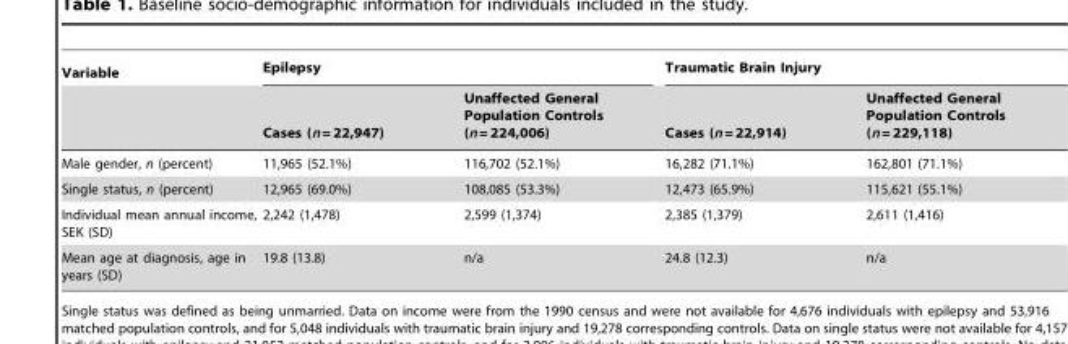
<table><thead><tr><td rowspan="2">Variable</td><td colspan="2">Epilepsy</td><td colspan="2">Traumatic Brain Injury</td></tr><tr><td>Cases (n = 22,947)</td><td>Unaffected General Population Controls (n = 224,006)</td><td>Cases (n = 22,914)</td><td>Unaffected General Population Controls (n = 229,118)</td></tr></thead><tbody><tr><td>Male gender, n (percent)</td><td>11,965 (52.1%)</td><td>116,702 (52.1%)</td><td>16,282 (71.1%)</td><td>162,801 (71.1%)</td></tr><tr><td>Single status, n (percent)</td><td>12,965 (69.0%)</td><td>108,085 (53.3%)</td><td>12,473 (65.9%)</td><td>115,621 (55.1%)</td></tr><tr><td>Individual mean annual income, SEK (SD)</td><td>2,242 (1,478)</td><td>2,599 (1,374)</td><td>2,385 (1,379)</td><td>2,611 (1,416)</td></tr><tr><td>Mean age at diagnosis, age in years (SD)</td><td>19.8 (13.8)</td><td>n/a</td><td>24.8 (12.3)</td><td>n/a</td></tr></tbody></table>